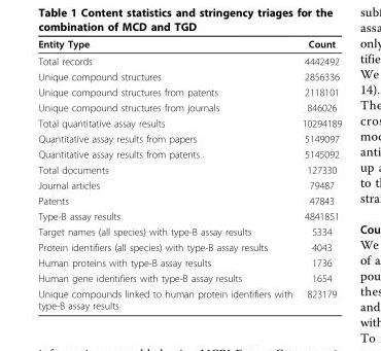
<table><thead><tr><td>Entity Type</td><td>Count</td></tr></thead><tbody><tr><td>Total records</td><td>4442492</td></tr><tr><td>Unique compound structures</td><td>2856336</td></tr><tr><td>Unique compound structures from patents</td><td>2118101</td></tr><tr><td>Unique compound structures from journals</td><td>846026</td></tr><tr><td>Total quantitative assay results</td><td>10294189</td></tr><tr><td>Quantitative assay results from papers</td><td>5149097</td></tr><tr><td>Quantitative assay results from patents</td><td>5145092</td></tr><tr><td>Total documents</td><td>127330</td></tr><tr><td>Journal articles</td><td>79487</td></tr><tr><td>Patents</td><td>47843</td></tr><tr><td>Type-B assay results</td><td>4841851</td></tr><tr><td>Target names (all species) with type-B assay results</td><td>5334</td></tr><tr><td>Protein identifiers (all species) with type-B assay results</td><td>4043</td></tr><tr><td>Human proteins with type-B assay results</td><td>1736</td></tr><tr><td>Human gene identifiers with type-B assay results</td><td>1654</td></tr><tr><td>Unique compounds linked to human protein identifiers with type-B assay results</td><td>823179</td></tr></tbody></table>